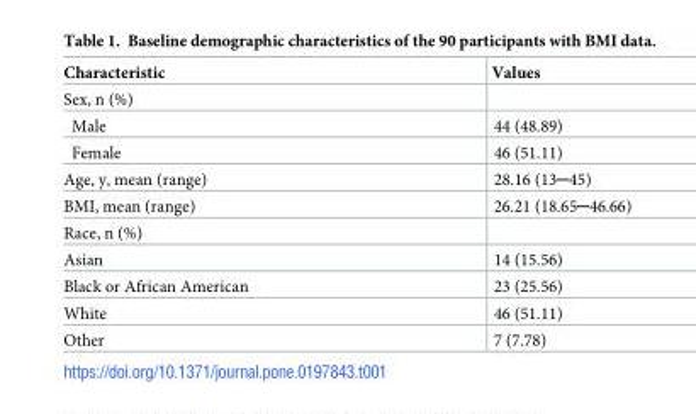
<table><thead><tr><td>Characteristic</td><td>Values</td></tr></thead><tbody><tr><td colspan="2">Sex, n (%)</td></tr><tr><td>Male</td><td>44 (48.89)</td></tr><tr><td>Female</td><td>46 (51.11)</td></tr><tr><td>Age, y, mean (range)</td><td>28.16 (13─45)</td></tr><tr><td>BMI, mean (range)</td><td>26.21 (18.65─46.66)</td></tr><tr><td colspan="2">Race, n (%)</td></tr><tr><td>Asian</td><td>14 (15.56)</td></tr><tr><td>Black or African American</td><td>23 (25.56)</td></tr><tr><td>White</td><td>46 (51.11)</td></tr><tr><td>Other</td><td>7 (7.78)</td></tr></tbody></table>